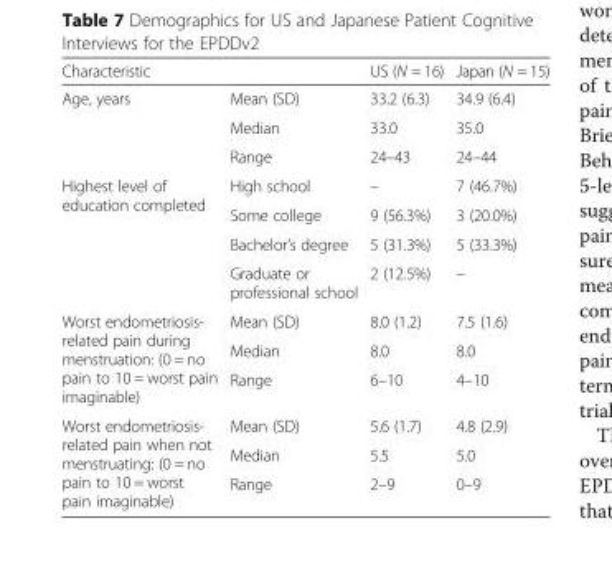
<table><thead><tr><td>Characteristic</td><td></td><td>US (N = 16)</td><td>Japan (N = 15)</td></tr></thead><tbody><tr><td rowspan="3">Age, years</td><td>Mean (SD)</td><td>33.2 (6.3)</td><td>34.9 (6.4)</td></tr><tr><td>Median</td><td>33.0</td><td>35.0</td></tr><tr><td>Range</td><td>24–43</td><td>24–44</td></tr><tr><td rowspan="4">Highest level of education completed</td><td>High school</td><td>–</td><td>7 (46.7%)</td></tr><tr><td>Some college</td><td>9 (56.3%)</td><td>3 (20.0%)</td></tr><tr><td>Bachelor’s degree</td><td>5 (31.3%)</td><td>5 (33.3%)</td></tr><tr><td>Graduate or professional school</td><td>2 (12.5%)</td><td>–</td></tr><tr><td rowspan="3">Worst endometriosis- related pain during menstruation: (0 = no pain to 10 = worst pain imaginable)</td><td>Mean (SD)</td><td>8.0 (1.2)</td><td>7.5 (1.6)</td></tr><tr><td>Median</td><td>8.0</td><td>8.0</td></tr><tr><td>Range</td><td>6–10</td><td>4–10</td></tr><tr><td rowspan="3">Worst endometriosis- related pain when not menstruating: (0 = no pain to 10 = worst pain imaginable)</td><td>Mean (SD)</td><td>5.6 (1.7)</td><td>4.8 (2.9)</td></tr><tr><td>Median</td><td>5.5</td><td>5.0</td></tr><tr><td>Range</td><td>2–9</td><td>0–9</td></tr></tbody></table>